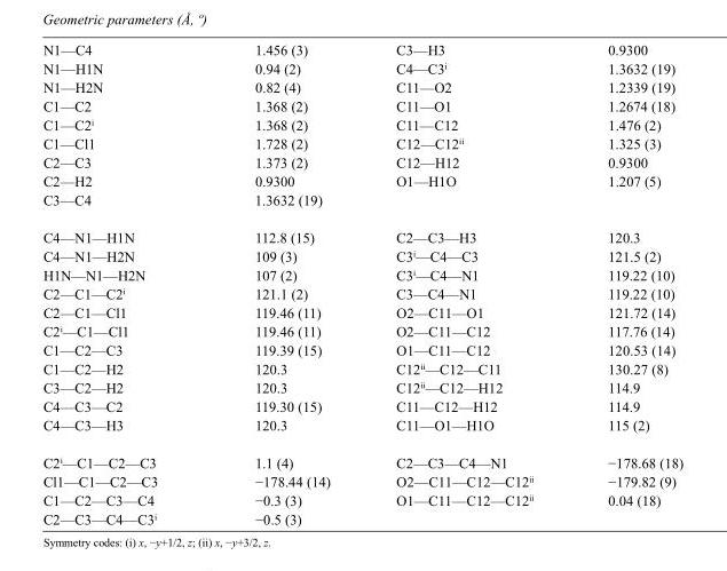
<table><tbody><tr><td>N1—C4</td><td>1.456 (3)</td><td>C3—H3</td><td>0.9300</td></tr><tr><td>N1—H1N</td><td>0.94 (2)</td><td>C4—C3<sup>i</sup></td><td>1.3632 (19)</td></tr><tr><td>N1—H2N</td><td>0.82 (4)</td><td>C11—O2</td><td>1.2339 (19)</td></tr><tr><td>C1—C2</td><td>1.368 (2)</td><td>C11—O1</td><td>1.2674 (18)</td></tr><tr><td>C1—C2<sup>i</sup></td><td>1.368 (2)</td><td>C11—C12</td><td>1.476 (2)</td></tr><tr><td>C1—Cl1</td><td>1.728 (2)</td><td>C12—C12<sup>ii</sup></td><td>1.325 (3)</td></tr><tr><td>C2—C3</td><td>1.373 (2)</td><td>C12—H12</td><td>0.9300</td></tr><tr><td>C2—H2</td><td>0.9300</td><td>O1—H1O</td><td>1.207 (5)</td></tr><tr><td>C3—C4</td><td>1.3632 (19)</td><td></td><td></td></tr><tr><td>C4—N1—H1N</td><td>112.8 (15)</td><td>C2—C3—H3</td><td>120.3</td></tr><tr><td>C4—N1—H2N</td><td>109 (3)</td><td>C3<sup>i</sup>—C4—C3</td><td>121.5 (2)</td></tr><tr><td>H1N—N1—H2N</td><td>107 (2)</td><td>C3<sup>i</sup>—C4—N1</td><td>119.22 (10)</td></tr><tr><td>C2—C1—C2<sup>i</sup></td><td>121.1 (2)</td><td>C3—C4—N1</td><td>119.22 (10)</td></tr><tr><td>C2—C1—Cl1</td><td>119.46 (11)</td><td>O2—C11—O1</td><td>121.72 (14)</td></tr><tr><td>C2<sup>i</sup>—C1—Cl1</td><td>119.46 (11)</td><td>O2—C11—C12</td><td>117.76 (14)</td></tr><tr><td>C1—C2—C3</td><td>119.39 (15)</td><td>O1—C11—C12</td><td>120.53 (14)</td></tr><tr><td>C1—C2—H2</td><td>120.3</td><td>C12<sup>ii</sup>—C12—C11</td><td>130.27 (8)</td></tr><tr><td>C3—C2—H2</td><td>120.3</td><td>C12<sup>ii</sup>—C12—H12</td><td>114.9</td></tr><tr><td>C4—C3—C2</td><td>119.30 (15)</td><td>C11—C12—H12</td><td>114.9</td></tr><tr><td>C4—C3—H3</td><td>120.3</td><td>C11—O1—H1O</td><td>115 (2)</td></tr><tr><td>C2<sup>i</sup>—C1—C2—C3</td><td>1.1 (4)</td><td>C2—C3—C4—N1</td><td>−178.68 (18)</td></tr><tr><td>Cl1—C1—C2—C3</td><td>−178.44 (14)</td><td>O2—C11—C12—C12<sup>ii</sup></td><td>−179.82 (9)</td></tr><tr><td>C1—C2—C3—C4</td><td>−0.3 (3)</td><td>O1—C11—C12—C12<sup>ii</sup></td><td>0.04 (18)</td></tr><tr><td>C2—C3—C4—C3<sup>i</sup></td><td>−0.5 (3)</td><td></td><td></td></tr></tbody></table>